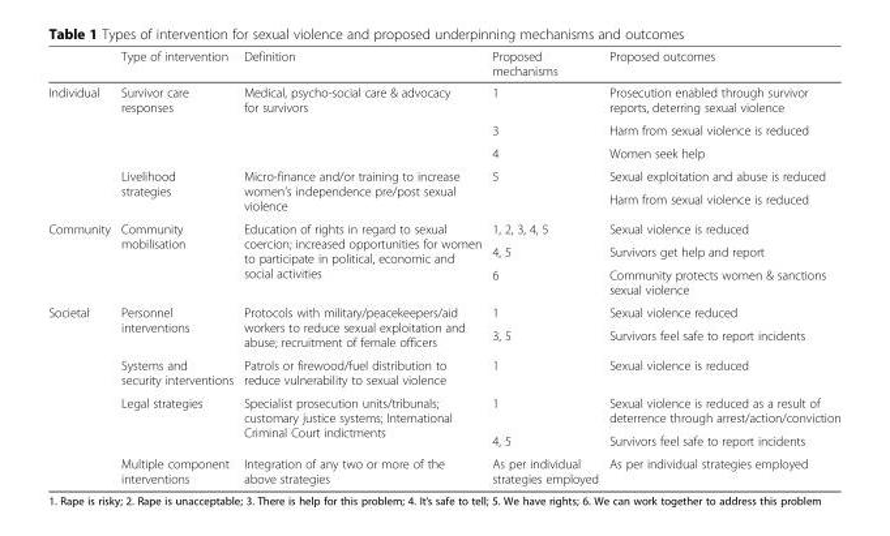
<table><thead><tr><td></td><td>Type of intervention</td><td>Definition</td><td>Proposed mechanisms</td><td>Proposed outcomes</td></tr></thead><tbody><tr><td rowspan="5">Individual</td><td rowspan="3">Survivor care responses</td><td rowspan="3">Medical, psycho-social care &amp; advocacy for survivors</td><td>1</td><td>Prosecution enabled through survivor reports, deterring sexual violence</td></tr><tr><td>3</td><td>Harm from sexual violence is reduced</td></tr><tr><td>4</td><td>Women seek help</td></tr><tr><td rowspan="2">Livelihood strategies</td><td rowspan="2">Micro-finance and/or training to increase women’s independence pre/post sexual violence</td><td rowspan="2">5</td><td>Sexual exploitation and abuse is reduced</td></tr><tr><td>Harm from sexual violence is reduced</td></tr><tr><td rowspan="3">Community</td><td rowspan="3">Community mobilisation</td><td rowspan="3">Education of rights in regard to sexual coercion; increased opportunities for women to participate in political, economic and social activities</td><td>1, 2, 3, 4, 5</td><td>Sexual violence is reduced</td></tr><tr><td>4, 5</td><td>Survivors get help and report</td></tr><tr><td>6</td><td>Community protects women &amp; sanctions sexual violence</td></tr><tr><td rowspan="6">Societal</td><td rowspan="2">Personnel interventions</td><td rowspan="2">Protocols with military/peacekeepers/aid workers to reduce sexual exploitation and abuse; recruitment of female officers</td><td>1</td><td>Sexual violence reduced</td></tr><tr><td>3, 5</td><td>Survivors feel safe to report incidents</td></tr><tr><td>Systems and security interventions</td><td>Patrols or firewood/fuel distribution to reduce vulnerability to sexual violence</td><td>1</td><td>Sexual violence is reduced</td></tr><tr><td rowspan="2">Legal strategies</td><td rowspan="2">Specialist prosecution units/tribunals; customary justice systems; International Criminal Court indictments</td><td>1</td><td>Sexual violence is reduced as a result of deterrence through arrest/action/conviction</td></tr><tr><td>4, 5</td><td>Survivors feel safe to report incidents</td></tr><tr><td>Multiple component interventions</td><td>Integration of any two or more of the above strategies</td><td>As per individual strategies employed</td><td>As per individual strategies employed</td></tr></tbody></table>